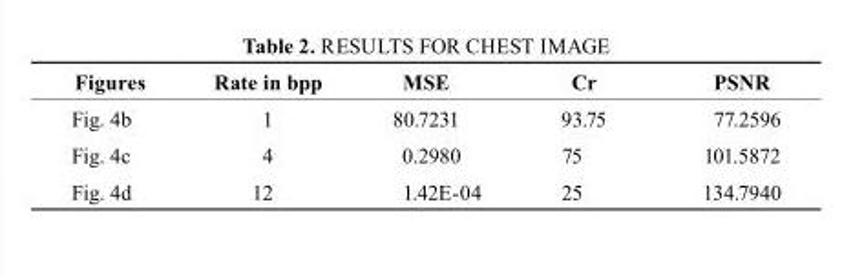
<table><thead><tr><td>Figures</td><td>rate in bpp</td><td>MsE</td><td>cr</td><td>PSNR</td></tr></thead><tbody><tr><td>Fig. 4b</td><td>1</td><td>80.7231</td><td>93.75</td><td>77.2596</td></tr><tr><td>Fig. 4c</td><td>4</td><td>0.2980</td><td>75</td><td>101.5872</td></tr><tr><td>Fig. 4d</td><td>12</td><td>1.42E-04</td><td>25</td><td>134.7940</td></tr></tbody></table>